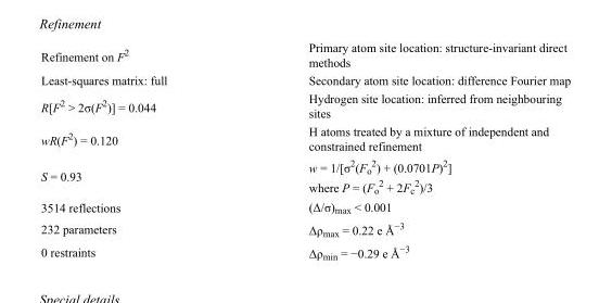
<table><tbody><tr><td>Refinement on F<sup>2</sup></td><td>Primary atom site location: structure-invariant direct methods</td></tr><tr><td>Least-squares matrix: full</td><td>Secondary atom site location: difference Fourier map</td></tr><tr><td>R[F<sup>2</sup> &gt; 2σ(F<sup>2</sup>)] = 0.044</td><td>Hydrogen site location: inferred from neighbouring sites</td></tr><tr><td>wR(F<sup>2</sup>) = 0.120</td><td>H atoms treated by a mixture of independent and constrained refinement</td></tr><tr><td>S = 0.93</td><td>w = 1/[σ<sup>2</sup>(F<sub>o</sub> <sup>2</sup>) + (0.0701P)<sup>2</sup>] where P = (F<sub>o</sub> <sup>2</sup> + 2F<sub>c</sub> <sup>2</sup>)/3</td></tr><tr><td>3514 reflections</td><td>(Δ/σ)<sub>max</sub> &lt; 0.001</td></tr><tr><td>232 parameters</td><td>Δρ<sub>max</sub> = 0.22 e Å<sup>−3</sup></td></tr><tr><td>0 restraints</td><td>Δρ<sub>min</sub> = −0.29 e Å<sup>−3</sup></td></tr></tbody></table>